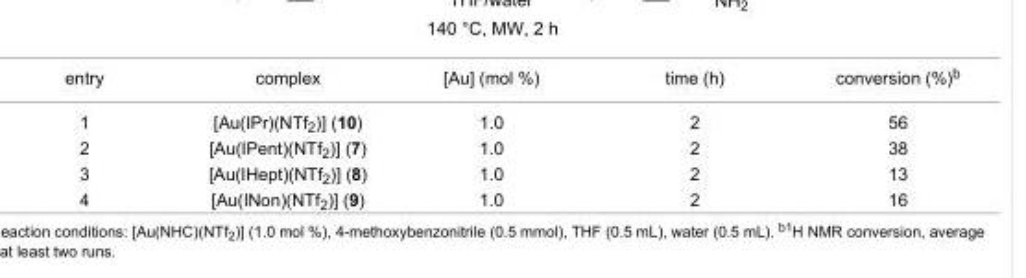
<table><tbody><tr><td>entry</td><td>complex</td><td>[Au] (mol %)</td><td>time (h)</td><td>conversion (%)<sup>b</sup></td></tr><tr><td>1</td><td>[Au(IPr)(NTf<sub>2</sub>)] (10)</td><td>1.0</td><td>2</td><td>56</td></tr><tr><td>2</td><td>[Au(IPent)(NTf<sub>2</sub>)] (7)</td><td>1.0</td><td>2</td><td>38</td></tr><tr><td>3</td><td>[Au(IHept)(NTf<sub>2</sub>)] (8)</td><td>1.0</td><td>2</td><td>13</td></tr><tr><td>4</td><td>[Au(INon)(NTf<sub>2</sub>)] (9)</td><td>1.0</td><td>2</td><td>16</td></tr></tbody></table>